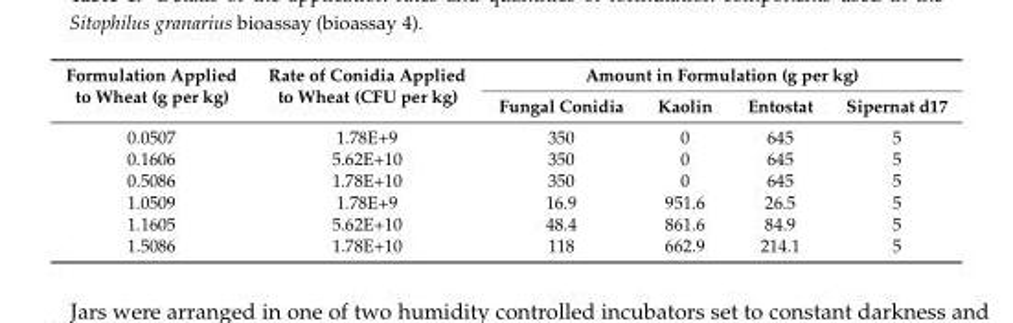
<table><thead><tr><td rowspan="2">Formulation Applied to Wheat (g per kg)</td><td rowspan="2">Rate of Conidia Applied to Wheat (CFU per kg)</td><td colspan="4">Amount in Formulation (g per kg)</td></tr><tr><td>Fungal Conidia</td><td>Kaolin</td><td>Entostat</td><td>Sipernat d17</td></tr></thead><tbody><tr><td>0.0507</td><td>1.78E+9</td><td>350</td><td>0</td><td>645</td><td>5</td></tr><tr><td>0.1606</td><td>5.62E+10</td><td>350</td><td>0</td><td>645</td><td>5</td></tr><tr><td>0.5086</td><td>1.78E+10</td><td>350</td><td>0</td><td>645</td><td>5</td></tr><tr><td>1.0509</td><td>1.78E+9</td><td>16.9</td><td>951.6</td><td>26.5</td><td>5</td></tr><tr><td>1.1605</td><td>5.62E+10</td><td>48.4</td><td>861.6</td><td>84.9</td><td>5</td></tr><tr><td>1.5086</td><td>1.78E+10</td><td>118</td><td>662.9</td><td>214.1</td><td>5</td></tr></tbody></table>